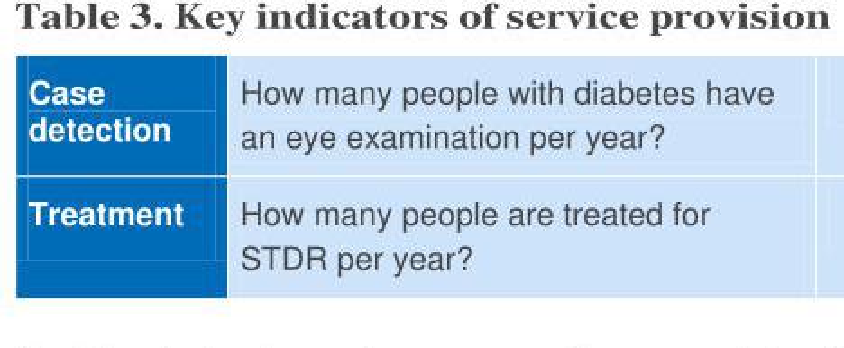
<table><tbody><tr><td>Case detection</td><td>How many people with diabetes have an eye examination per year?</td></tr><tr><td>Treatment</td><td>How many people are treated for STDR per year?</td></tr></tbody></table>